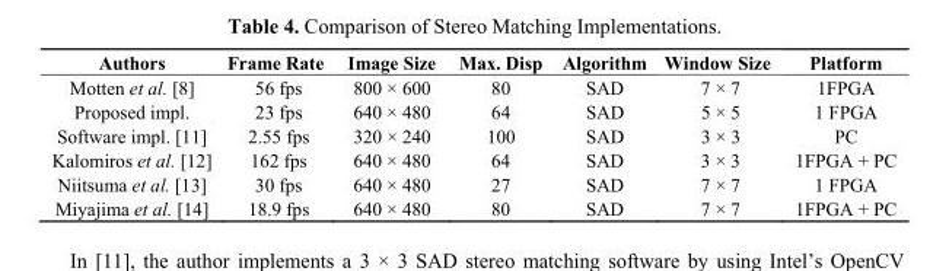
<table><thead><tr><td>Authors</td><td>Frame Rate</td><td>Image Size</td><td>Max. Disp</td><td>Algorithm</td><td>Window Size</td><td>Platform</td></tr></thead><tbody><tr><td>Motten et al. [8]</td><td>56 fps</td><td>800 × 600</td><td>80</td><td>SAD</td><td>7 × 7</td><td>1FPGA</td></tr><tr><td>Proposed impl.</td><td>23 fps</td><td>640 × 480</td><td>64</td><td>SAD</td><td>5 × 5</td><td>1 FPGA</td></tr><tr><td>Software impl. [11]</td><td>2.55 fps</td><td>320 × 240</td><td>100</td><td>SAD</td><td>3 × 3</td><td>PC</td></tr><tr><td>Kalomiros et al. [12]</td><td>162 fps</td><td>640 × 480</td><td>64</td><td>SAD</td><td>3 × 3</td><td>1FPGA + PC</td></tr><tr><td>Niitsuma et al. [13]</td><td>30 fps</td><td>640 × 480</td><td>27</td><td>SAD</td><td>7 × 7</td><td>1 FPGA</td></tr><tr><td>Miyajima et al. [14]</td><td>18.9 fps</td><td>640 × 480</td><td>80</td><td>SAD</td><td>7 × 7</td><td>1FPGA + PC</td></tr></tbody></table>